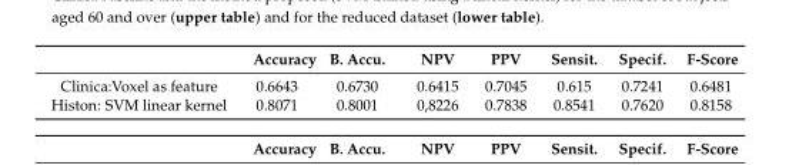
<table><thead><tr><td></td><td>Accuracy</td><td>B. Accu.</td><td>NPV</td><td>PPV</td><td>Sensit.</td><td>Specif.</td><td>F-Score</td></tr></thead><tbody><tr><td>Clinica:Voxel as feature</td><td>0.6643</td><td>0.6730</td><td>0.6415</td><td>0.7045</td><td>0.615</td><td>0.7241</td><td>0.6481</td></tr><tr><td>Histon: SVM linear kernel</td><td>0.8071</td><td>0.8001</td><td>0,8226</td><td>0.7838</td><td>0.8541</td><td>0.7620</td><td>0.8158</td></tr></tbody></table>